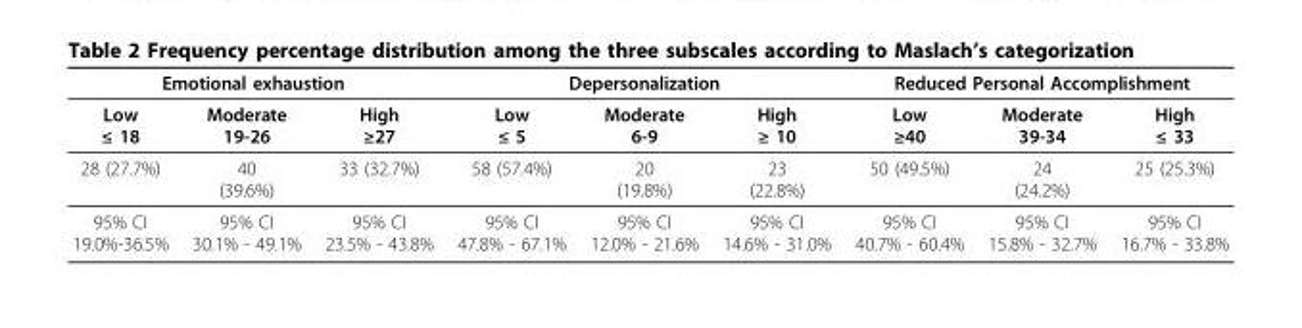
<table><thead><tr><td colspan="3">Emotional exhaustion</td><td colspan="3">Depersonalization</td><td colspan="3">Reduced Personal Accomplishment</td></tr><tr><td>Low ≤ 18</td><td>Moderate 19-26</td><td>High ≥27</td><td>Low ≤ 5</td><td>Moderate 6-9</td><td>High ≥ 10</td><td>Low ≥40</td><td>Moderate 39-34</td><td>High ≤ 33</td></tr></thead><tbody><tr><td>28 (27.7%)</td><td>40 (39.6%)</td><td>33 (32.7%)</td><td>58 (57.4%)</td><td>20 (19.8%)</td><td>23 (22.8%)</td><td>50 (49.5%)</td><td>24 (24.2%)</td><td>25 (25.3%)</td></tr><tr><td>95% CI 19.0%-36.5%</td><td>95% CI 30.1% - 49.1%</td><td>95% CI 23.5% - 43.8%</td><td>95% CI 47.8% - 67.1%</td><td>95% CI 12.0% - 21.6%</td><td>95% CI 14.6% - 31.0%</td><td>95% CI 40.7% - 60.4%</td><td>95% CI 15.8% - 32.7%</td><td>95% CI 16.7% - 33.8%</td></tr></tbody></table>